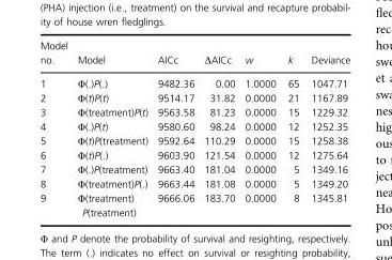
<table><thead><tr><td>Model no.</td><td>Model</td><td>AICc</td><td>ΔAICc</td><td>w</td><td>k</td><td>Deviance</td></tr></thead><tbody><tr><td>1</td><td>Φ(.)P(.)</td><td>9482.36</td><td>0.00</td><td>1.0000</td><td>65</td><td>1047.71</td></tr><tr><td>2</td><td>Φ(t)P(t)</td><td>9514.17</td><td>31.82</td><td>0.0000</td><td>21</td><td>1167.89</td></tr><tr><td>3</td><td>Φ(treatment)P(t)</td><td>9563.58</td><td>81.23</td><td>0.0000</td><td>15</td><td>1229.32</td></tr><tr><td>4</td><td>Φ(.)P(t)</td><td>9580.60</td><td>98.24</td><td>0.0000</td><td>12</td><td>1252.35</td></tr><tr><td>5</td><td>Φ(t)P(treatment)</td><td>9592.64</td><td>110.29</td><td>0.0000</td><td>15</td><td>1258.38</td></tr><tr><td>6</td><td>Φ(t)P(.)</td><td>9603.90</td><td>121.54</td><td>0.0000</td><td>12</td><td>1275.64</td></tr><tr><td>7</td><td>Φ(.)P(treatment)</td><td>9663.40</td><td>181.04</td><td>0.0000</td><td>5</td><td>1349.16</td></tr><tr><td>8</td><td>Φ(treatment)P(.)</td><td>9663.44</td><td>181.08</td><td>0.0000</td><td>5</td><td>1349.20</td></tr><tr><td>9</td><td>Φ(treatment) P(treatment)</td><td>9666.06</td><td>183.70</td><td>0.0000</td><td>8</td><td>1345.81</td></tr></tbody></table>